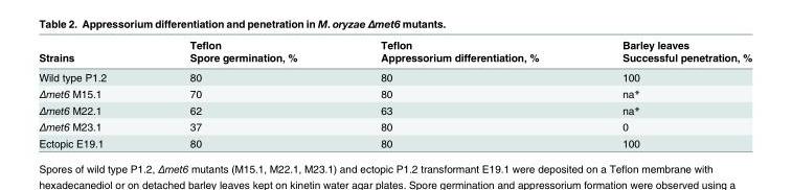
<table><thead><tr><td rowspan="2">Strains</td><td rowspan="2">Teflon Spore germination, %</td><td rowspan="2">Teflon Appressorium differentiation, %</td><td rowspan="2">Barley leaves Successful penetration, %</td></tr><tr></tr></thead><tbody><tr><td>Wild type P1.2</td><td>80</td><td>80</td><td>100</td></tr><tr><td>Δmet6 M15.1</td><td>70</td><td>80</td><td>na*</td></tr><tr><td>Δmet6 M22.1</td><td>62</td><td>63</td><td>na*</td></tr><tr><td>Δmet6 M23.1</td><td>37</td><td>80</td><td>0</td></tr><tr><td>Ectopic E19.1</td><td>80</td><td>80</td><td>100</td></tr></tbody></table>